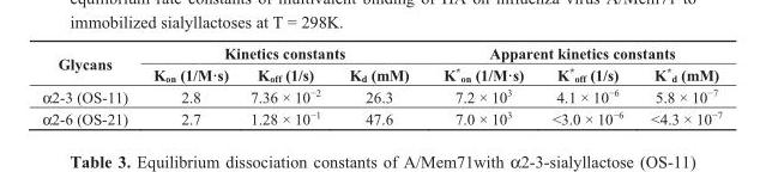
<table><thead><tr><td rowspan="2">Glycans</td><td colspan="3">Kinetics constants</td><td colspan="3">Apparent kinetics constants</td></tr><tr><td>K<sub>on</sub> (1/M·s)</td><td>K<sub>off</sub> (1/s)</td><td>K<sub>d</sub> (mM)</td><td>K*<sub>on</sub> (1/M·s)</td><td>K*<sub>off</sub> (1/s)</td><td>K*<sub>d</sub> (mM)</td></tr></thead><tbody><tr><td>α2-3 (OS-11)</td><td>2.8</td><td>7.36 × 10<sup>−2</sup></td><td>26.3</td><td>7.2 × 10<sup>3</sup></td><td>4.1 × 10<sup>−6</sup></td><td>5.8 × 10<sup>−7</sup></td></tr><tr><td>α2-6 (OS-21)</td><td>2.7</td><td>1.28 × 10<sup>−1</sup></td><td>47.6</td><td>7.0 × 10<sup>3</sup></td><td>&lt;3.0 × 10<sup>−6</sup></td><td>&lt;4.3 × 10<sup>−7</sup></td></tr></tbody></table>